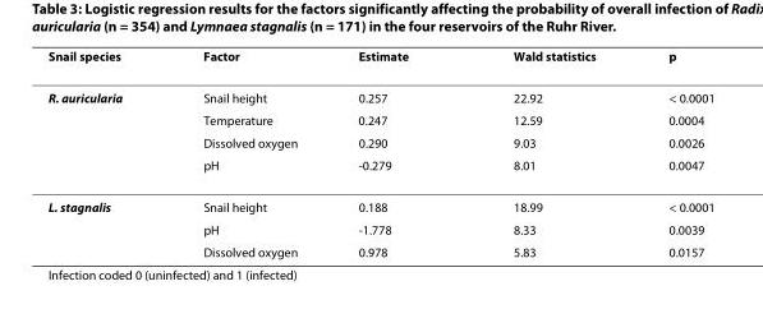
<table><thead><tr><td>Snail species</td><td>Factor</td><td>Estimate</td><td>Wald statistics</td><td>p</td></tr></thead><tbody><tr><td rowspan="4">R. auricularia</td><td>Snail height</td><td>0.257</td><td>22.92</td><td>&lt; 0.0001</td></tr><tr><td>Temperature</td><td>0.247</td><td>12.59</td><td>0.0004</td></tr><tr><td>Dissolved oxygen</td><td>0.290</td><td>9.03</td><td>0.0026</td></tr><tr><td>pH</td><td>-0.279</td><td>8.01</td><td>0.0047</td></tr><tr><td rowspan="3">L. stagnalis</td><td>Snail height</td><td>0.188</td><td>18.99</td><td>&lt; 0.0001</td></tr><tr><td>pH</td><td>-1.778</td><td>8.33</td><td>0.0039</td></tr><tr><td>Dissolved oxygen</td><td>0.978</td><td>5.83</td><td>0.0157</td></tr></tbody></table>